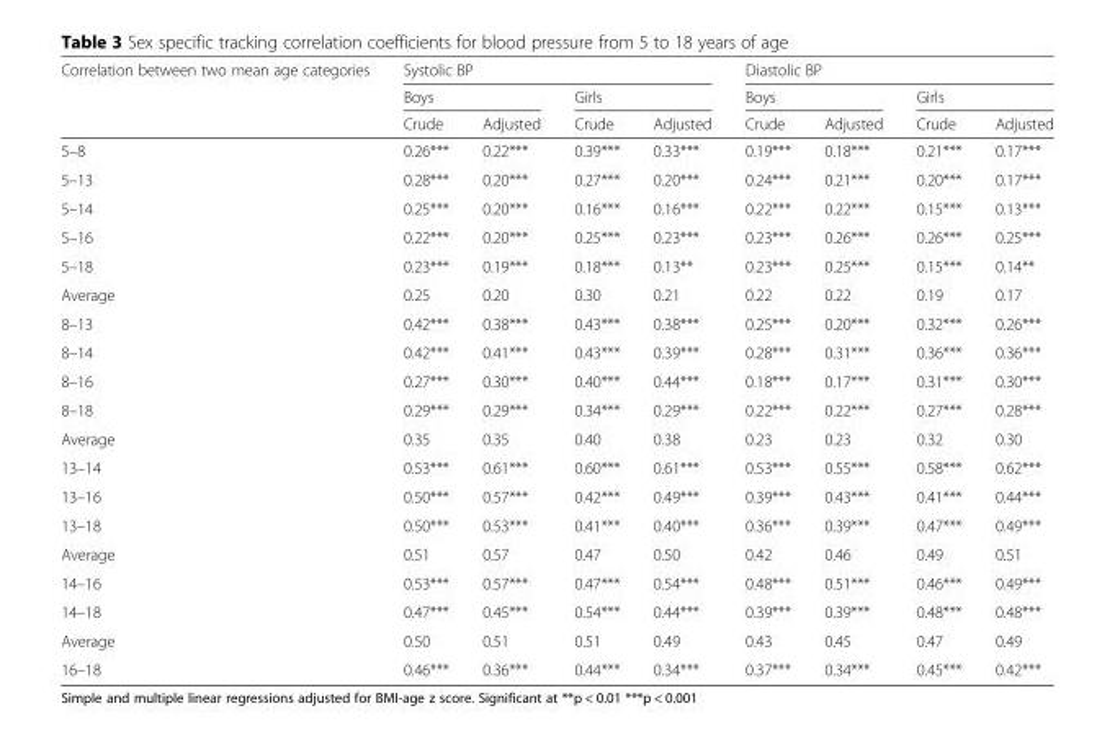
<table><thead><tr><td rowspan="3">Correlation between two mean age categories</td><td colspan="4">Systolic BP</td><td colspan="4">Diastolic BP</td></tr><tr><td colspan="2">Boys</td><td colspan="2">Girls</td><td colspan="2">Boys</td><td colspan="2">Girls</td></tr><tr><td>Crude</td><td>Adjusted</td><td>Crude</td><td>Adjusted</td><td>Crude</td><td>Adjusted</td><td>Crude</td><td>Adjusted</td></tr></thead><tbody><tr><td>5–8</td><td>0.26***</td><td>0.22***</td><td>0.39***</td><td>0.33***</td><td>0.19***</td><td>0.18***</td><td>0.21***</td><td>0.17***</td></tr><tr><td>5–13</td><td>0.28***</td><td>0.20***</td><td>0.27***</td><td>0.20***</td><td>0.24***</td><td>0.21***</td><td>0.20***</td><td>0.17***</td></tr><tr><td>5–14</td><td>0.25***</td><td>0.20***</td><td>0.16***</td><td>0.16***</td><td>0.22***</td><td>0.22***</td><td>0.15***</td><td>0.13***</td></tr><tr><td>5–16</td><td>0.22***</td><td>0.20***</td><td>0.25***</td><td>0.23***</td><td>0.23***</td><td>0.26***</td><td>0.26***</td><td>0.25***</td></tr><tr><td>5–18</td><td>0.23***</td><td>0.19***</td><td>0.18***</td><td>0.13**</td><td>0.23***</td><td>0.25***</td><td>0.15***</td><td>0.14**</td></tr><tr><td>Average</td><td>0.25</td><td>0.20</td><td>0.30</td><td>0.21</td><td>0.22</td><td>0.22</td><td>0.19</td><td>0.17</td></tr><tr><td>8–13</td><td>0.42***</td><td>0.38***</td><td>0.43***</td><td>0.38***</td><td>0.25***</td><td>0.20***</td><td>0.32***</td><td>0.26***</td></tr><tr><td>8–14</td><td>0.42***</td><td>0.41***</td><td>0.43***</td><td>0.39***</td><td>0.28***</td><td>0.31***</td><td>0.36***</td><td>0.36***</td></tr><tr><td>8–16</td><td>0.27***</td><td>0.30***</td><td>0.40***</td><td>0.44***</td><td>0.18***</td><td>0.17***</td><td>0.31***</td><td>0.30***</td></tr><tr><td>8–18</td><td>0.29***</td><td>0.29***</td><td>0.34***</td><td>0.29***</td><td>0.22***</td><td>0.22***</td><td>0.27***</td><td>0.28***</td></tr><tr><td>Average</td><td>0.35</td><td>0.35</td><td>0.40</td><td>0.38</td><td>0.23</td><td>0.23</td><td>0.32</td><td>0.30</td></tr><tr><td>13–14</td><td>0.53***</td><td>0.61***</td><td>0.60***</td><td>0.61***</td><td>0.53***</td><td>0.55***</td><td>0.58***</td><td>0.62***</td></tr><tr><td>13–16</td><td>0.50***</td><td>0.57***</td><td>0.42***</td><td>0.49***</td><td>0.39***</td><td>0.43***</td><td>0.41***</td><td>0.44***</td></tr><tr><td>13–18</td><td>0.50***</td><td>0.53***</td><td>0.41***</td><td>0.40***</td><td>0.36***</td><td>0.39***</td><td>0.47***</td><td>0.49***</td></tr><tr><td>Average</td><td>0.51</td><td>0.57</td><td>0.47</td><td>0.50</td><td>0.42</td><td>0.46</td><td>0.49</td><td>0.51</td></tr><tr><td>14–16</td><td>0.53***</td><td>0.57***</td><td>0.47***</td><td>0.54***</td><td>0.48***</td><td>0.51***</td><td>0.46***</td><td>0.49***</td></tr><tr><td>14–18</td><td>0.47***</td><td>0.45***</td><td>0.54***</td><td>0.44***</td><td>0.39***</td><td>0.39***</td><td>0.48***</td><td>0.48***</td></tr><tr><td>Average</td><td>0.50</td><td>0.51</td><td>0.51</td><td>0.49</td><td>0.43</td><td>0.45</td><td>0.47</td><td>0.49</td></tr><tr><td>16–18</td><td>0.46***</td><td>0.36***</td><td>0.44***</td><td>0.34***</td><td>0.37***</td><td>0.34***</td><td>0.45***</td><td>0.42***</td></tr></tbody></table>